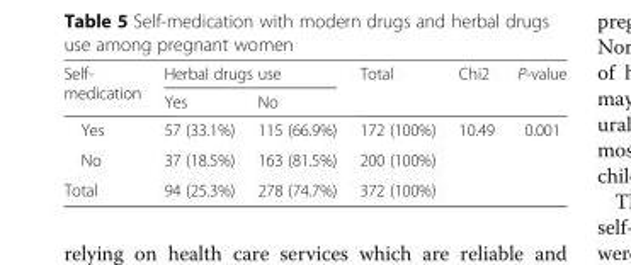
<table><thead><tr><td rowspan="2">Self- medication</td><td colspan="2">Herbal drugs use</td><td rowspan="2">Total</td><td rowspan="2">Chi2</td><td rowspan="2">P-value</td></tr><tr><td>Yes</td><td>No</td></tr></thead><tbody><tr><td>Yes</td><td>57 (33.1%)</td><td>115 (66.9%)</td><td>172 (100%)</td><td rowspan="3">10.49</td><td rowspan="3">0.001</td></tr><tr><td>No</td><td>37 (18.5%)</td><td>163 (81.5%)</td><td>200 (100%)</td></tr><tr><td>Total</td><td>94 (25.3%)</td><td>278 (74.7%)</td><td>372 (100%)</td></tr></tbody></table>